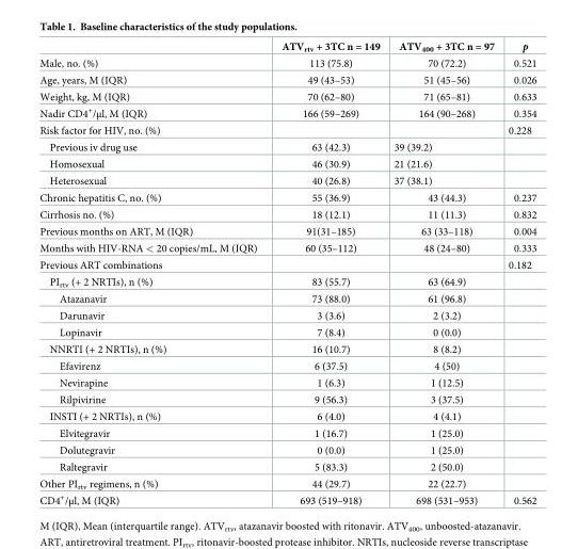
<table><thead><tr><td></td><td>ATV<sub>rtv</sub> + 3TC n = 149</td><td>ATV<sub>400</sub> + 3TC n = 97</td><td>p</td></tr></thead><tbody><tr><td>Male, no. (%)</td><td>113 (75.8)</td><td>70 (72.2)</td><td>0.521</td></tr><tr><td>Age, years, M (IQR)</td><td>49 (43–53)</td><td>51 (45–56)</td><td>0.026</td></tr><tr><td>Weight, kg, M (IQR)</td><td>70 (62–80)</td><td>71 (65–81)</td><td>0.633</td></tr><tr><td>Nadir CD4<sup>+</sup>/μl, M (IQR)</td><td>166 (59–269)</td><td>164 (90–268)</td><td>0.354</td></tr><tr><td>Risk factor for HIV, no. (%)</td><td></td><td></td><td>0.228</td></tr><tr><td>Previous iv drug use</td><td>63 (42.3)</td><td>39 (39.2)</td><td></td></tr><tr><td>Homosexual</td><td>46 (30.9)</td><td>21 (21.6)</td><td></td></tr><tr><td>Heterosexual</td><td>40 (26.8)</td><td>37 (38.1)</td><td></td></tr><tr><td>Chronic hepatitis C, no. (%)</td><td>55 (36.9)</td><td>43 (44.3)</td><td>0.237</td></tr><tr><td>Cirrhosis no. (%)</td><td>18 (12.1)</td><td>11 (11.3)</td><td>0.832</td></tr><tr><td>Previous months on ART, M (IQR)</td><td>91(31–185)</td><td>63 (33–118)</td><td>0.004</td></tr><tr><td>Months with HIV-RNA &lt; 20 copies/mL, M (IQR)</td><td>60 (35–112)</td><td>48 (24–80)</td><td>0.333</td></tr><tr><td>Previous ART combinations</td><td></td><td></td><td>0.182</td></tr><tr><td>PI<sub>rtv</sub> (+ 2 NRTIs), n (%)</td><td>83 (55.7)</td><td>63 (64.9)</td><td></td></tr><tr><td>Atazanavir</td><td>73 (88.0)</td><td>61 (96.8)</td><td></td></tr><tr><td>Darunavir</td><td>3 (3.6)</td><td>2 (3.2)</td><td></td></tr><tr><td>Lopinavir</td><td>7 (8.4)</td><td>0 (0.0)</td><td></td></tr><tr><td>NNRTI (+ 2 NRTIs), n (%)</td><td>16 (10.7)</td><td>8 (8.2)</td><td></td></tr><tr><td>Efavirenz</td><td>6 (37.5)</td><td>4 (50)</td><td></td></tr><tr><td>Nevirapine</td><td>1 (6.3)</td><td>1 (12.5)</td><td></td></tr><tr><td>Rilpivirine</td><td>9 (56.3)</td><td>3 (37.5)</td><td></td></tr><tr><td>INSTI (+ 2 NRTIs), n (%)</td><td>6 (4.0)</td><td>4 (4.1)</td><td></td></tr><tr><td>Elvitegravir</td><td>1 (16.7)</td><td>1 (25.0)</td><td></td></tr><tr><td>Dolutegravir</td><td>0 (0.0)</td><td>1 (25.0)</td><td></td></tr><tr><td>Raltegravir</td><td>5 (83.3)</td><td>2 (50.0)</td><td></td></tr><tr><td>Other PI<sub>rtv</sub> regimens, n (%)</td><td>44 (29.7)</td><td>22 (22.7)</td><td></td></tr><tr><td>CD4<sup>+</sup>/μl, M (IQR)</td><td>693 (519–918)</td><td>698 (531–953)</td><td>0.562</td></tr></tbody></table>